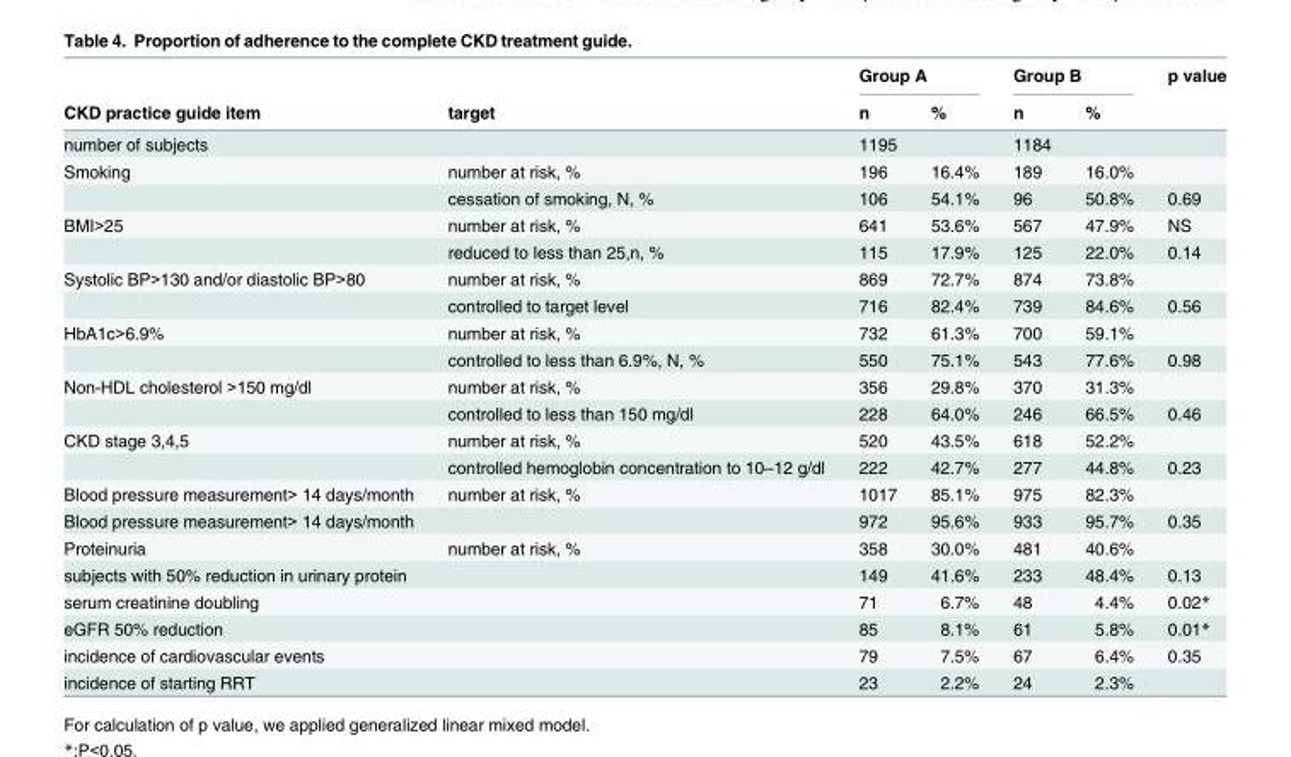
<table><thead><tr><td rowspan="2">CKD practice guide item</td><td rowspan="2">target</td><td colspan="2">Group A</td><td colspan="2">Group B</td><td rowspan="2">p value</td></tr><tr><td>n</td><td>%</td><td>n</td><td>%</td></tr></thead><tbody><tr><td>number of subjects</td><td></td><td>1195</td><td></td><td>1184</td><td></td><td></td></tr><tr><td rowspan="2">Smoking</td><td>number at risk, %</td><td>196</td><td>16.4%</td><td>189</td><td>16.0%</td><td></td></tr><tr><td>cessation of smoking, N, %</td><td>106</td><td>54.1%</td><td>96</td><td>50.8%</td><td>0.69</td></tr><tr><td rowspan="2">BMI&gt;25</td><td>number at risk, %</td><td>641</td><td>53.6%</td><td>567</td><td>47.9%</td><td>NS</td></tr><tr><td>reduced to less than 25,n, %</td><td>115</td><td>17.9%</td><td>125</td><td>22.0%</td><td>0.14</td></tr><tr><td rowspan="2">Systolic BP&gt;130 and/or diastolic BP&gt;80</td><td>number at risk, %</td><td>869</td><td>72.7%</td><td>874</td><td>73.8%</td><td></td></tr><tr><td>controlled to target level</td><td>716</td><td>82.4%</td><td>739</td><td>84.6%</td><td>0.56</td></tr><tr><td rowspan="2">HbA1c&gt;6.9%</td><td>number at risk, %</td><td>732</td><td>61.3%</td><td>700</td><td>59.1%</td><td></td></tr><tr><td>controlled to less than 6.9%, N, %</td><td>550</td><td>75.1%</td><td>543</td><td>77.6%</td><td>0.98</td></tr><tr><td rowspan="2">Non-HDL cholesterol &gt;150 mg/dl</td><td>number at risk, %</td><td>356</td><td>29.8%</td><td>370</td><td>31.3%</td><td></td></tr><tr><td>controlled to less than 150 mg/dl</td><td>228</td><td>64.0%</td><td>246</td><td>66.5%</td><td>0.46</td></tr><tr><td rowspan="2">CKD stage 3,4,5</td><td>number at risk, %</td><td>520</td><td>43.5%</td><td>618</td><td>52.2%</td><td></td></tr><tr><td>controlled hemoglobin concentration to 10–12 g/dl</td><td>222</td><td>42.7%</td><td>277</td><td>44.8%</td><td>0.23</td></tr><tr><td>Blood pressure measurement&gt; 14 days/month</td><td>number at risk, %</td><td>1017</td><td>85.1%</td><td>975</td><td>82.3%</td><td></td></tr><tr><td colspan="2">Blood pressure measurement&gt; 14 days/month</td><td>972</td><td>95.6%</td><td>933</td><td>95.7%</td><td>0.35</td></tr><tr><td>Proteinuria</td><td>number at risk, %</td><td>358</td><td>30.0%</td><td>481</td><td>40.6%</td><td></td></tr><tr><td colspan="2">subjects with 50% reduction in urinary protein</td><td>149</td><td>41.6%</td><td>233</td><td>48.4%</td><td>0.13</td></tr><tr><td>serum creatinine doubling</td><td></td><td>71</td><td>6.7%</td><td>48</td><td>4.4%</td><td>0.02*</td></tr><tr><td>eGFR 50% reduction</td><td></td><td>85</td><td>8.1%</td><td>61</td><td>5.8%</td><td>0.01*</td></tr><tr><td>incidence of cardiovascular events</td><td></td><td>79</td><td>7.5%</td><td>67</td><td>6.4%</td><td>0.35</td></tr><tr><td>incidence of starting RRT</td><td></td><td>23</td><td>2.2%</td><td>24</td><td>2.3%</td><td></td></tr></tbody></table>